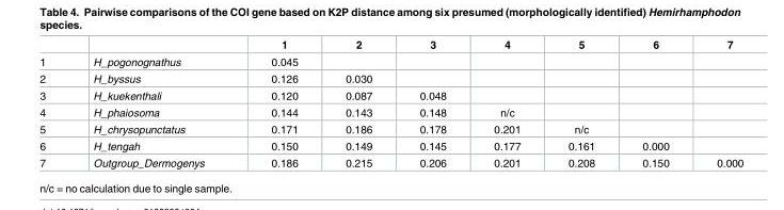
<table><thead><tr><td></td><td></td><td>1</td><td>2</td><td>3</td><td>4</td><td>5</td><td>6</td><td>7</td></tr></thead><tbody><tr><td>1</td><td>H_pogonognathus</td><td>0.045</td><td></td><td></td><td></td><td></td><td></td><td></td></tr><tr><td>2</td><td>H_byssus</td><td>0.126</td><td>0.030</td><td></td><td></td><td></td><td></td><td></td></tr><tr><td>3</td><td>H_kuekenthali</td><td>0.120</td><td>0.087</td><td>0.048</td><td></td><td></td><td></td><td></td></tr><tr><td>4</td><td>H_phaiosoma</td><td>0.144</td><td>0.143</td><td>0.148</td><td>n/c</td><td></td><td></td><td></td></tr><tr><td>5</td><td>H_chrysopunctatus</td><td>0.171</td><td>0.186</td><td>0.178</td><td>0.201</td><td>n/c</td><td></td><td></td></tr><tr><td>6</td><td>H_tengah</td><td>0.150</td><td>0.149</td><td>0.145</td><td>0.177</td><td>0.161</td><td>0.000</td><td></td></tr><tr><td>7</td><td>Outgroup_Dermogenys</td><td>0.186</td><td>0.215</td><td>0.206</td><td>0.201</td><td>0.208</td><td>0.150</td><td>0.000</td></tr></tbody></table>